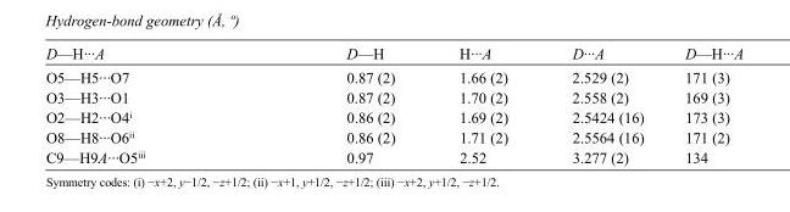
<table><tbody><tr><td>D—H···A</td><td>D—H</td><td>H···A</td><td>D···A</td><td>D—H···A</td></tr><tr><td>O5—H5···O7</td><td>0.87 (2)</td><td>1.66 (2)</td><td>2.529 (2)</td><td>171 (3)</td></tr><tr><td>O3—H3···O1</td><td>0.87 (2)</td><td>1.70 (2)</td><td>2.558 (2)</td><td>169 (3)</td></tr><tr><td>O2—H2···O4<sup>i</sup></td><td>0.86 (2)</td><td>1.69 (2)</td><td>2.5424 (16)</td><td>173 (3)</td></tr><tr><td>O8—H8···O6<sup>ii</sup></td><td>0.86 (2)</td><td>1.71 (2)</td><td>2.5564 (16)</td><td>171 (2)</td></tr><tr><td>C9—H9A···O5<sup>iii</sup></td><td>0.97</td><td>2.52</td><td>3.277 (2)</td><td>134</td></tr></tbody></table>